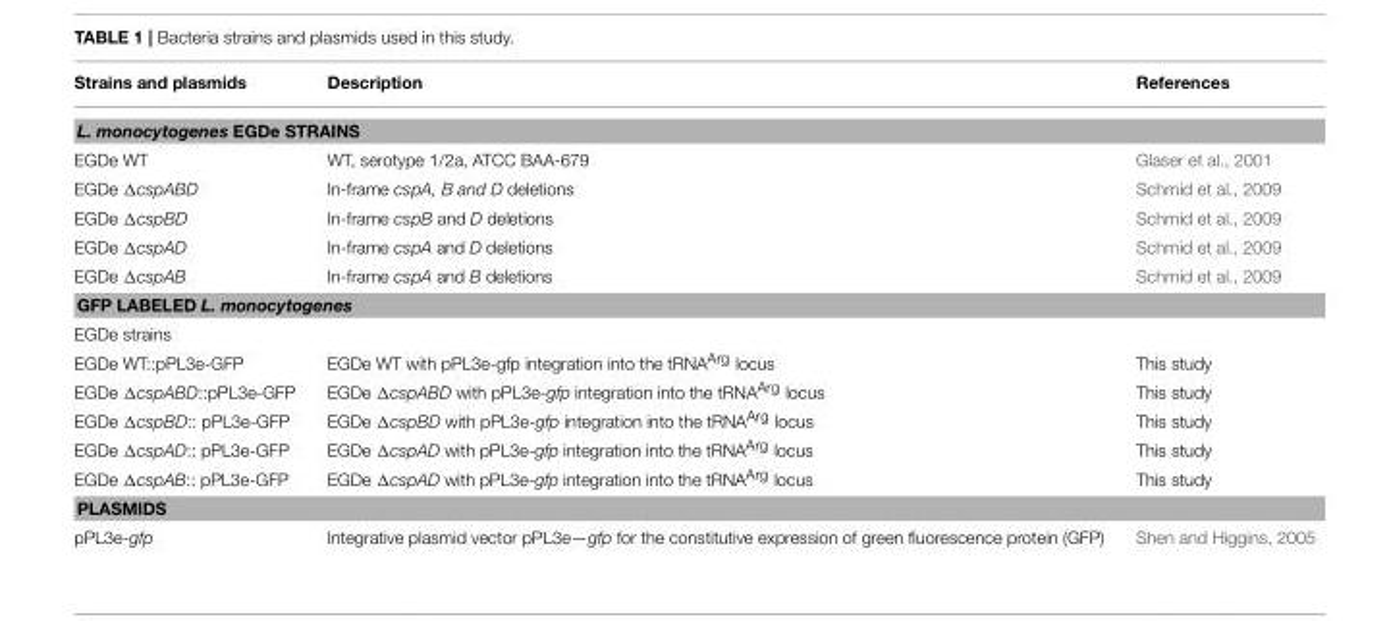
<table><thead><tr><td>Strains and plasmids</td><td>Description</td><td>References</td></tr></thead><tbody><tr><td colspan="3">L. monocytogenes EGDe STRAINS</td></tr><tr><td>EGDe WT</td><td>WT, serotype 1/2a, ATCC BAA-679</td><td>Glaser et al., 2001</td></tr><tr><td>EGDe ΔcspABD</td><td>In-frame cspA, B and D deletions</td><td>Schmid et al., 2009</td></tr><tr><td>EGDe ΔcspBD</td><td>In-frame cspB and D deletions</td><td>Schmid et al., 2009</td></tr><tr><td>EGDe ΔcspAD</td><td>In-frame cspA and D deletions</td><td>Schmid et al., 2009</td></tr><tr><td>EGDe ΔcspAB</td><td>In-frame cspA and B deletions</td><td>Schmid et al., 2009</td></tr><tr><td colspan="3">GFP LABELED L. monocytogenes</td></tr><tr><td colspan="3">EGDe strains</td></tr><tr><td>EGDe WT::pPL3e-GFP</td><td>EGDe WT with pPL3e-gfp integration into the tRNA<sup>Arg</sup> locus</td><td>This study</td></tr><tr><td>EGDe ΔcspABD::pPL3e-GFP</td><td>EGDe ΔcspABD with pPL3e-gfp integration into the tRNA<sup>Arg</sup> locus</td><td>This study</td></tr><tr><td>EGDe ΔcspBD:: pPL3e-GFP</td><td>EGDe ΔcspBD with pPL3e-gfp integration into the tRNA<sup>Arg</sup> locus</td><td>This study</td></tr><tr><td>EGDe ΔcspAD:: pPL3e-GFP</td><td>EGDe ΔcspAD with pPL3e-gfp integration into the tRNA<sup>Arg</sup> locus</td><td>This study</td></tr><tr><td>EGDe ΔcspAB:: pPL3e-GFP</td><td>EGDe ΔcspAD with pPL3e-gfp integration into the tRNA<sup>Arg</sup> locus</td><td>This study</td></tr><tr><td colspan="3">PLASMIDS</td></tr><tr><td>pPL3e-gfp</td><td>Integrative plasmid vector pPL3e—gfp for the constitutive expression of green fluorescence protein (GFP)</td><td>Shen and Higgins, 2005</td></tr></tbody></table>